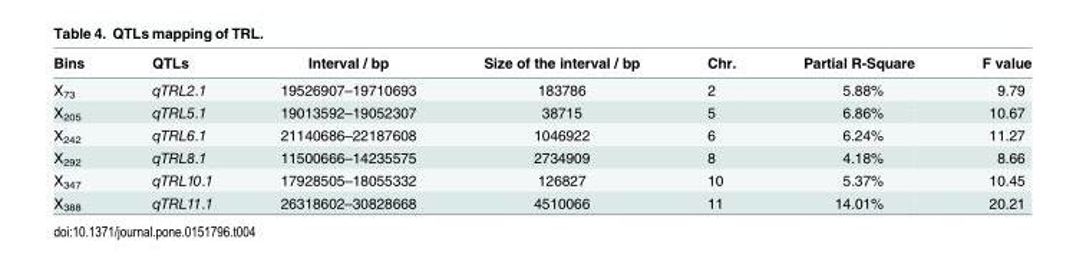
<table><thead><tr><td>Bins</td><td>QTLs</td><td>Interval / bp</td><td>Size of the interval / bp</td><td>Chr.</td><td>Partial R-Square</td><td>F value</td></tr></thead><tbody><tr><td>X<sub>73</sub></td><td>qTRL2.1</td><td>19526907–19710693</td><td>183786</td><td>2</td><td>5.88%</td><td>9.79</td></tr><tr><td>X<sub>205</sub></td><td>qTRL5.1</td><td>19013592–19052307</td><td>38715</td><td>5</td><td>6.86%</td><td>10.67</td></tr><tr><td>X<sub>242</sub></td><td>qTRL6.1</td><td>21140686–22187608</td><td>1046922</td><td>6</td><td>6.24%</td><td>11.27</td></tr><tr><td>X<sub>292</sub></td><td>qTRL8.1</td><td>11500666–14235575</td><td>2734909</td><td>8</td><td>4.18%</td><td>8.66</td></tr><tr><td>X<sub>347</sub></td><td>qTRL10.1</td><td>17928505–18055332</td><td>126827</td><td>10</td><td>5.37%</td><td>10.45</td></tr><tr><td>X<sub>388</sub></td><td>qTRL11.1</td><td>26318602–30828668</td><td>4510066</td><td>11</td><td>14.01%</td><td>20.21</td></tr></tbody></table>